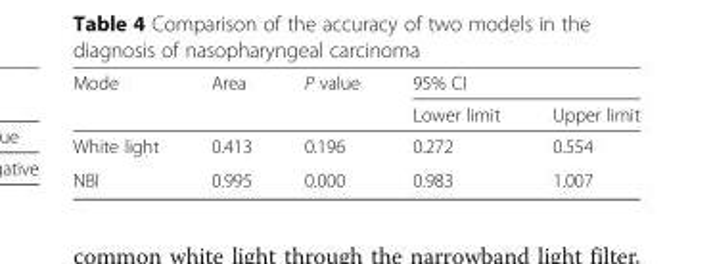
<table><thead><tr><td rowspan="2">Mode</td><td rowspan="2">Area</td><td rowspan="2">P value</td><td colspan="2">95% CI</td></tr><tr><td>Lower limit</td><td>Upper limit</td></tr></thead><tbody><tr><td>White light</td><td>0.413</td><td>0.196</td><td>0.272</td><td>0.554</td></tr><tr><td>NBI</td><td>0.995</td><td>0.000</td><td>0.983</td><td>1.007</td></tr></tbody></table>